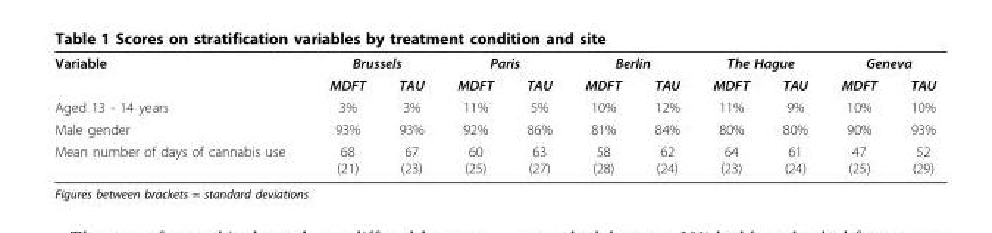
<table><tbody><tr><td rowspan="2">Variable</td><td colspan="2">Brussels</td><td colspan="2">Paris</td><td colspan="2">Berlin</td><td colspan="2">The Hague</td><td colspan="2">Geneva</td></tr><tr><td>MDFT</td><td>TAU</td><td>MDFT</td><td>TAU</td><td>MDFT</td><td>TAU</td><td>MDFT</td><td>TAU</td><td>MDFT</td><td>TAU</td></tr><tr><td>Aged 13 - 14 years</td><td>3%</td><td>3%</td><td>11%</td><td>5%</td><td>10%</td><td>12%</td><td>11%</td><td>9%</td><td>10%</td><td>10%</td></tr><tr><td>Male gender</td><td>93%</td><td>93%</td><td>92%</td><td>86%</td><td>81%</td><td>84%</td><td>80%</td><td>80%</td><td>90%</td><td>93%</td></tr><tr><td>Mean number of days of cannabis use</td><td>68 (21)</td><td>67 (23)</td><td>60 (25)</td><td>63 (27)</td><td>58 (28)</td><td>62 (24)</td><td>64 (23)</td><td>61 (24)</td><td>47 (25)</td><td>52 (29)</td></tr></tbody></table>